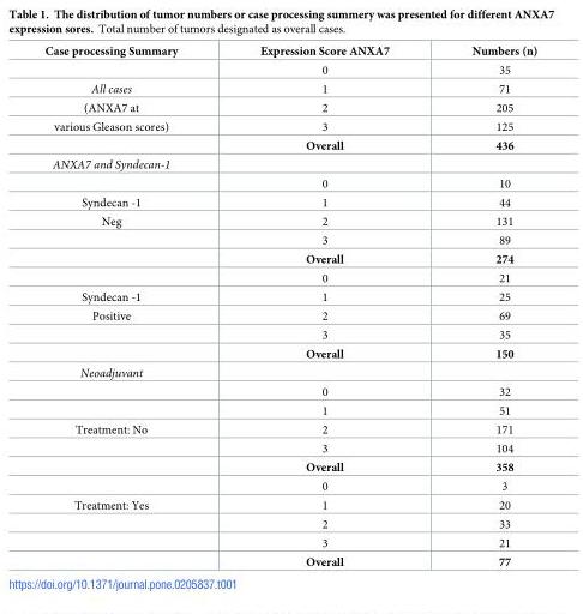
<table><thead><tr><td>Case processing Summary</td><td>Expression Score ANXA7</td><td>Numbers (n)</td></tr></thead><tbody><tr><td></td><td>0</td><td>35</td></tr><tr><td>All cases</td><td>1</td><td>71</td></tr><tr><td>(ANXA7 at</td><td>2</td><td>205</td></tr><tr><td rowspan="2">various Gleason scores)</td><td>3</td><td>125</td></tr><tr><td>Overall</td><td>436</td></tr><tr><td colspan="3">ANXA7 and Syndecan-1</td></tr><tr><td></td><td>0</td><td>10</td></tr><tr><td>Syndecan -1</td><td>1</td><td>44</td></tr><tr><td rowspan="4">Neg</td><td>2</td><td>131</td></tr><tr><td>3</td><td>89</td></tr><tr><td>Overall</td><td>274</td></tr><tr><td>0</td><td>21</td></tr><tr><td>Syndecan -1</td><td>1</td><td>25</td></tr><tr><td rowspan="3">Positive</td><td>2</td><td>69</td></tr><tr><td>3</td><td>35</td></tr><tr><td>Overall</td><td>150</td></tr><tr><td colspan="3">Neoadjuvant</td></tr><tr><td></td><td>0</td><td>32</td></tr><tr><td></td><td>1</td><td>51</td></tr><tr><td rowspan="4">Treatment: No</td><td>2</td><td>171</td></tr><tr><td>3</td><td>104</td></tr><tr><td>Overall</td><td>358</td></tr><tr><td>0</td><td>3</td></tr><tr><td rowspan="4">Treatment: Yes</td><td>1</td><td>20</td></tr><tr><td>2</td><td>33</td></tr><tr><td>3</td><td>21</td></tr><tr><td>Overall</td><td>77</td></tr></tbody></table>